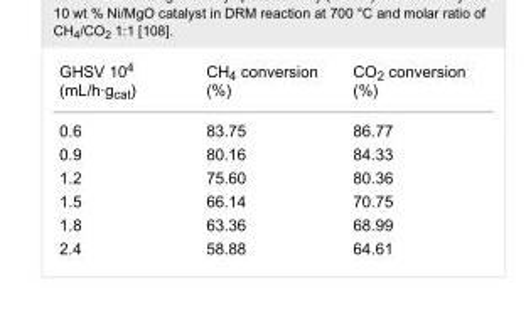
<table><tbody><tr><td>GHSV 10<sup>4</sup> (mL/h·g<sub>cat</sub>)</td><td>CH<sub>4</sub> conversion (%)</td><td>CO<sub>2</sub> conversion (%)</td></tr><tr><td>0.6</td><td>83.75</td><td>86.77</td></tr><tr><td>0.9</td><td>80.16</td><td>84.33</td></tr><tr><td>1.2</td><td>75.60</td><td>80.36</td></tr><tr><td>1.5</td><td>66.14</td><td>70.75</td></tr><tr><td>1.8</td><td>63.36</td><td>68.99</td></tr><tr><td>2.4</td><td>58.88</td><td>64.61</td></tr></tbody></table>